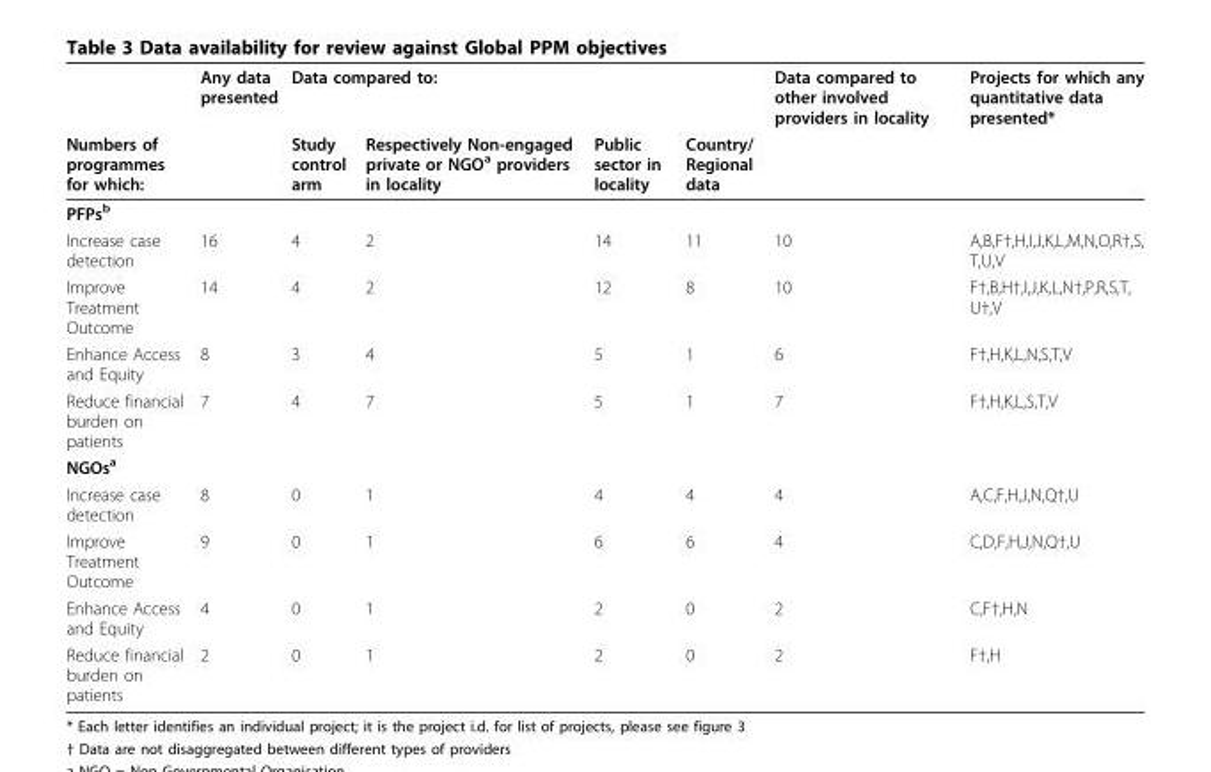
<table><thead><tr><td rowspan="2">Numbers of programmes for which:</td><td rowspan="2">Any data presented</td><td colspan="4">Data compared to:</td><td rowspan="2">Data compared to other involved providers in locality</td><td rowspan="2">Projects for which any quantitative data presented*</td></tr><tr><td>Study control arm</td><td>Respectively Non-engaged private or NGO<sup>a</sup> providers in locality</td><td>Public sector in locality</td><td>Country/ Regional data</td></tr></thead><tbody><tr><td colspan="8">PFPs<sup>b</sup></td></tr><tr><td>Increase case detection</td><td>16</td><td>4</td><td>2</td><td>14</td><td>11</td><td>10</td><td>A,B,F†,H,I,J,K,L,M,N,O,R†,S, T,U,V</td></tr><tr><td>Improve Treatment Outcome</td><td>14</td><td>4</td><td>2</td><td>12</td><td>8</td><td>10</td><td>F†,B,H†,I,J,K,L,N†,P,R,S,T, U†,V</td></tr><tr><td>Enhance Access and Equity</td><td>8</td><td>3</td><td>4</td><td>5</td><td>1</td><td>6</td><td>F†,H,K,L,N,S,T,V</td></tr><tr><td>Reduce financial burden on patients</td><td>7</td><td>4</td><td>7</td><td>5</td><td>1</td><td>7</td><td>F†,H,K,L,S,T,V</td></tr><tr><td colspan="8">NGOs<sup>a</sup></td></tr><tr><td>Increase case detection</td><td>8</td><td>0</td><td>1</td><td>4</td><td>4</td><td>4</td><td>A,C,F,H,J,N,Q†,U</td></tr><tr><td>Improve Treatment Outcome</td><td>9</td><td>0</td><td>1</td><td>6</td><td>6</td><td>4</td><td>C,D,F,H,J,N,Q†,U</td></tr><tr><td>Enhance Access and Equity</td><td>4</td><td>0</td><td>1</td><td>2</td><td>0</td><td>2</td><td>C,F†,H,N</td></tr><tr><td>Reduce financial burden on patients</td><td>2</td><td>0</td><td>1</td><td>2</td><td>0</td><td>2</td><td>F†,H</td></tr></tbody></table>